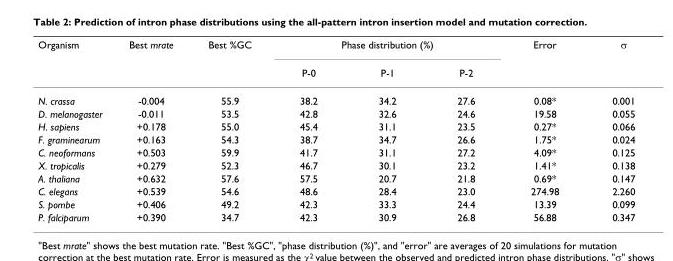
<table><thead><tr><td rowspan="2">Organism</td><td rowspan="2">Best mrate</td><td rowspan="2">Best %GC</td><td colspan="3">Phase distribution (%)</td><td rowspan="2">Error</td><td rowspan="2">σ</td></tr><tr><td>P-0</td><td>P-1</td><td>P-2</td></tr></thead><tbody><tr><td>N. crassa</td><td>-0.004</td><td>55.9</td><td>38.2</td><td>34.2</td><td>27.6</td><td>0.08*</td><td>0.001</td></tr><tr><td>D. melanogaster</td><td>-0.011</td><td>53.5</td><td>42.8</td><td>32.6</td><td>24.6</td><td>19.58</td><td>0.055</td></tr><tr><td>H. sapiens</td><td>+0.178</td><td>55.0</td><td>45.4</td><td>31.1</td><td>23.5</td><td>0.27*</td><td>0.066</td></tr><tr><td>F. graminearum</td><td>+0.163</td><td>54.3</td><td>38.7</td><td>34.7</td><td>26.6</td><td>1.75*</td><td>0.024</td></tr><tr><td>C. neoformans</td><td>+0.503</td><td>59.9</td><td>41.7</td><td>31.1</td><td>27.2</td><td>4.09*</td><td>0.125</td></tr><tr><td>X. tropicalis</td><td>+0.279</td><td>52.3</td><td>46.7</td><td>30.1</td><td>23.2</td><td>1.41*</td><td>0.138</td></tr><tr><td>A. thaliana</td><td>+0.632</td><td>57.6</td><td>57.5</td><td>20.7</td><td>21.8</td><td>0.69*</td><td>0.147</td></tr><tr><td>C. elegans</td><td>+0.539</td><td>54.6</td><td>48.6</td><td>28.4</td><td>23.0</td><td>274.98</td><td>2.260</td></tr><tr><td>S. pombe</td><td>+0.406</td><td>49.2</td><td>42.3</td><td>33.3</td><td>24.4</td><td>13.39</td><td>0.099</td></tr><tr><td>P. falciparum</td><td>+0.390</td><td>34.7</td><td>42.3</td><td>30.9</td><td>26.8</td><td>56.88</td><td>0.347</td></tr></tbody></table>